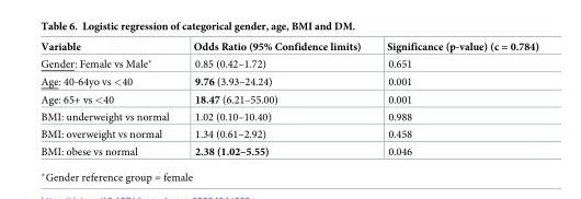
<table><thead><tr><td>Variable</td><td>Odds Ratio (95% Confidence limits)</td><td>Significance (p-value) (c = 0.784)</td></tr></thead><tbody><tr><td>Gender: Female vs Male*</td><td>0.85 (0.42–1.72)</td><td>0.651</td></tr><tr><td>Age: 40-64yo vs &lt;40</td><td>9.76 (3.93–24.24)</td><td>0.001</td></tr><tr><td>Age: 65+ vs &lt;40</td><td>18.47 (6.21–55.00)</td><td>0.001</td></tr><tr><td>BMI: underweight vs normal</td><td>1.02 (0.10–10.40)</td><td>0.988</td></tr><tr><td>BMI: overweight vs normal</td><td>1.34 (0.61–2.92)</td><td>0.458</td></tr><tr><td>BMI: obese vs normal</td><td>2.38 (1.02–5.55)</td><td>0.046</td></tr></tbody></table>